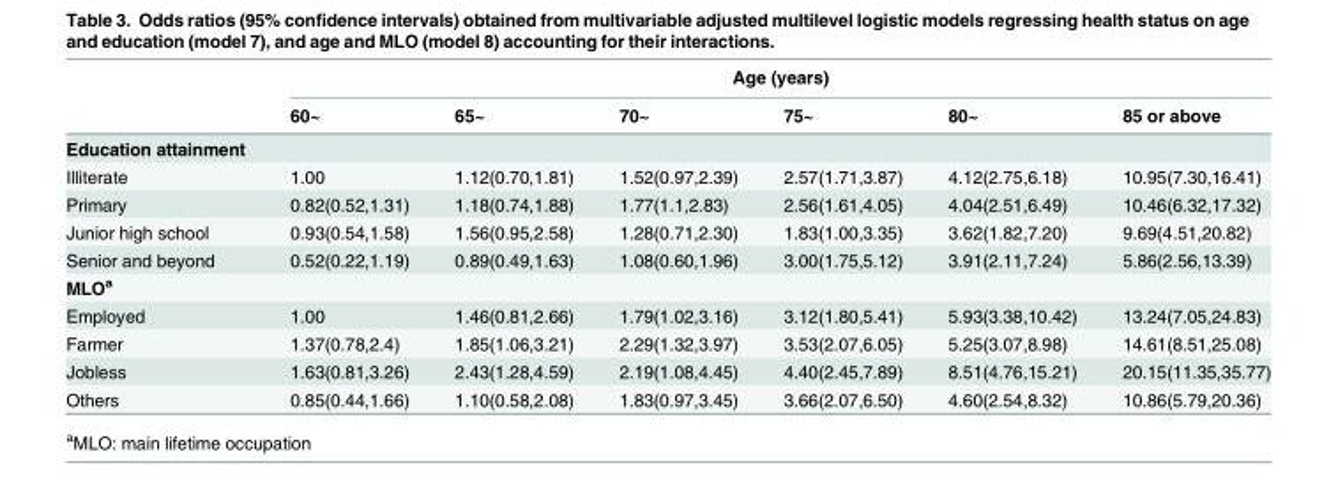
<table><thead><tr><td rowspan="2"></td><td colspan="6">Age (years)</td></tr><tr><td>60~</td><td>65~</td><td>70~</td><td>75~</td><td>80~</td><td>85 or above</td></tr></thead><tbody><tr><td colspan="7">Education attainment</td></tr><tr><td>Illiterate</td><td>1.00</td><td>1.12(0.70,1.81)</td><td>1.52(0.97,2.39)</td><td>2.57(1.71,3.87)</td><td>4.12(2.75,6.18)</td><td>10.95(7.30,16.41)</td></tr><tr><td>Primary</td><td>0.82(0.52,1.31)</td><td>1.18(0.74,1.88)</td><td>1.77(1.1,2.83)</td><td>2.56(1.61,4.05)</td><td>4.04(2.51,6.49)</td><td>10.46(6.32,17.32)</td></tr><tr><td>Junior high school</td><td>0.93(0.54,1.58)</td><td>1.56(0.95,2.58)</td><td>1.28(0.71,2.30)</td><td>1.83(1.00,3.35)</td><td>3.62(1.82,7.20)</td><td>9.69(4.51,20.82)</td></tr><tr><td>Senior and beyond</td><td>0.52(0.22,1.19)</td><td>0.89(0.49,1.63)</td><td>1.08(0.60,1.96)</td><td>3.00(1.75,5.12)</td><td>3.91(2.11,7.24)</td><td>5.86(2.56,13.39)</td></tr><tr><td colspan="7">MLO<sup>a</sup></td></tr><tr><td>Employed</td><td>1.00</td><td>1.46(0.81,2.66)</td><td>1.79(1.02,3.16)</td><td>3.12(1.80,5.41)</td><td>5.93(3.38,10.42)</td><td>13.24(7.05,24.83)</td></tr><tr><td>Farmer</td><td>1.37(0.78,2.4)</td><td>1.85(1.06,3.21)</td><td>2.29(1.32,3.97)</td><td>3.53(2.07,6.05)</td><td>5.25(3.07,8.98)</td><td>14.61(8.51,25.08)</td></tr><tr><td>Jobless</td><td>1.63(0.81,3.26)</td><td>2.43(1.28,4.59)</td><td>2.19(1.08,4.45)</td><td>4.40(2.45,7.89)</td><td>8.51(4.76,15.21)</td><td>20.15(11.35,35.77)</td></tr><tr><td>Others</td><td>0.85(0.44,1.66)</td><td>1.10(0.58,2.08)</td><td>1.83(0.97,3.45)</td><td>3.66(2.07,6.50)</td><td>4.60(2.54,8.32)</td><td>10.86(5.79,20.36)</td></tr></tbody></table>